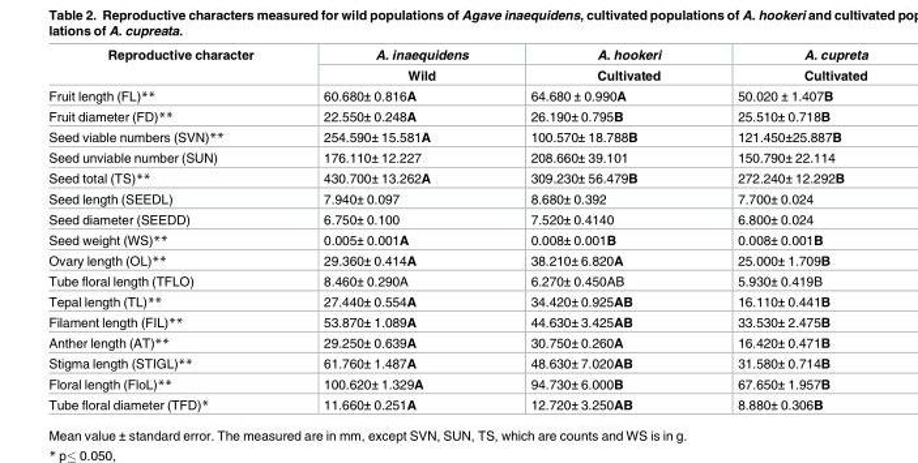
<table><thead><tr><td rowspan="2">Reproductive character</td><td rowspan="2">A. inaequidens Wild</td><td rowspan="2">A. hookeri Cultivated</td><td rowspan="2">A. cupreta Cultivated</td></tr><tr></tr></thead><tbody><tr><td>Fruit length (FL)**</td><td>60.680± 0.816A</td><td>64.680 ± 0.990A</td><td>50.020 ± 1.407B</td></tr><tr><td>Fruit diameter (FD)**</td><td>22.550± 0.248A</td><td>26.190± 0.795B</td><td>25.510± 0.718B</td></tr><tr><td>Seed viable numbers (SVN)**</td><td>254.590± 15.581A</td><td>100.570± 18.788B</td><td>121.450±25.887B</td></tr><tr><td>Seed unviable number (SUN)</td><td>176.110± 12.227</td><td>208.660± 39.101</td><td>150.790± 22.114</td></tr><tr><td>Seed total (TS)**</td><td>430.700± 13.262A</td><td>309.230± 56.479B</td><td>272.240± 12.292B</td></tr><tr><td>Seed length (SEEDL)</td><td>7.940± 0.097</td><td>8.680± 0.392</td><td>7.700± 0.024</td></tr><tr><td>Seed diameter (SEEDD)</td><td>6.750± 0.100</td><td>7.520± 0.4140</td><td>6.800± 0.024</td></tr><tr><td>Seed weight (WS)**</td><td>0.005± 0.001A</td><td>0.008± 0.001B</td><td>0.008± 0.001B</td></tr><tr><td>Ovary length (OL)**</td><td>29.360± 0.414A</td><td>38.210± 6.820A</td><td>25.000± 1.709B</td></tr><tr><td>Tube floral length (TFLO)</td><td>8.460± 0.290A</td><td>6.270± 0.450AB</td><td>5.930± 0.419B</td></tr><tr><td>Tepal length (TL)**</td><td>27.440± 0.554A</td><td>34.420± 0.925AB</td><td>16.110± 0.441B</td></tr><tr><td>Filament length (FIL)**</td><td>53.870± 1.089A</td><td>44.630± 3.425AB</td><td>33.530± 2.475B</td></tr><tr><td>Anther length (AT)**</td><td>29.250± 0.639A</td><td>30.750± 0.260A</td><td>16.420± 0.471B</td></tr><tr><td>Stigma length (STIGL)**</td><td>61.760± 1.487A</td><td>48.630± 7.020AB</td><td>31.580± 0.714B</td></tr><tr><td>Floral length (FloL)**</td><td>100.620± 1.329A</td><td>94.730± 6.000B</td><td>67.650± 1.957B</td></tr><tr><td>Tube floral diameter (TFD)*</td><td>11.660± 0.251A</td><td>12.720± 3.250AB</td><td>8.880± 0.306B</td></tr></tbody></table>